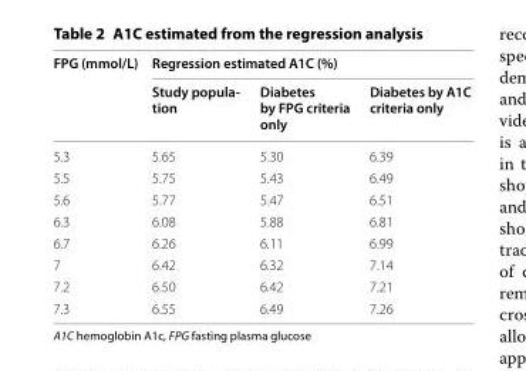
<table><thead><tr><td rowspan="2">FPG (mmol/L)</td><td colspan="3">Regression estimated A1C (%)</td></tr><tr><td>Study popula- tion</td><td>Diabetes by FPG criteria only</td><td>Diabetes by A1C criteria only</td></tr></thead><tbody><tr><td>5.3</td><td>5.65</td><td>5.30</td><td>6.39</td></tr><tr><td>5.5</td><td>5.75</td><td>5.43</td><td>6.49</td></tr><tr><td>5.6</td><td>5.77</td><td>5.47</td><td>6.51</td></tr><tr><td>6.3</td><td>6.08</td><td>5.88</td><td>6.81</td></tr><tr><td>6.7</td><td>6.26</td><td>6.11</td><td>6.99</td></tr><tr><td>7</td><td>6.42</td><td>6.32</td><td>7.14</td></tr><tr><td>7.2</td><td>6.50</td><td>6.42</td><td>7.21</td></tr><tr><td>7.3</td><td>6.55</td><td>6.49</td><td>7.26</td></tr></tbody></table>